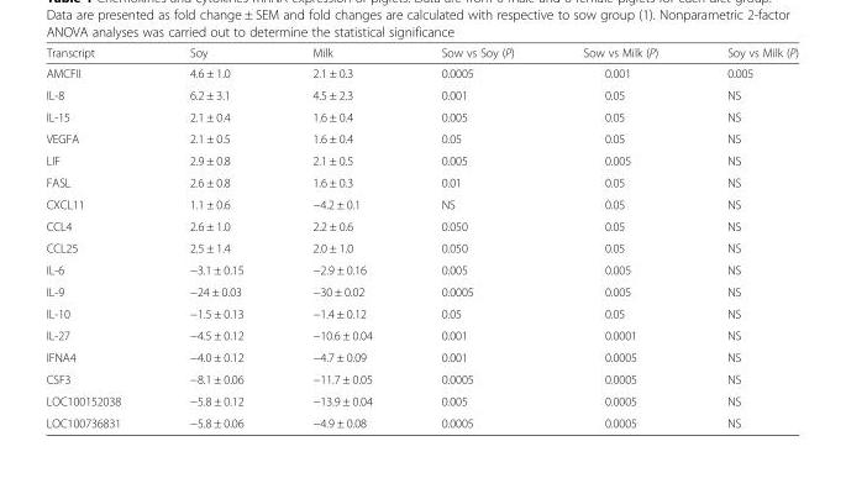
<table><thead><tr><td>Transcript</td><td>Soy</td><td>Milk</td><td>Sow vs Soy (P)</td><td>Sow vs Milk (P)</td><td>Soy vs Milk (P)</td></tr></thead><tbody><tr><td>AMCFII</td><td>4.6 ± 1.0</td><td>2.1 ± 0.3</td><td>0.0005</td><td>0.001</td><td>0.005</td></tr><tr><td>IL-8</td><td>6.2 ± 3.1</td><td>4.5 ± 2.3</td><td>0.001</td><td>0.05</td><td>NS</td></tr><tr><td>IL-15</td><td>2.1 ± 0.4</td><td>1.6 ± 0.4</td><td>0.005</td><td>0.05</td><td>NS</td></tr><tr><td>VEGFA</td><td>2.1 ± 0.5</td><td>1.6 ± 0.4</td><td>0.05</td><td>0.05</td><td>NS</td></tr><tr><td>LIF</td><td>2.9 ± 0.8</td><td>2.1 ± 0.5</td><td>0.005</td><td>0.005</td><td>NS</td></tr><tr><td>FASL</td><td>2.6 ± 0.8</td><td>1.6 ± 0.3</td><td>0.01</td><td>0.05</td><td>NS</td></tr><tr><td>CXCL11</td><td>1.1 ± 0.6</td><td>−4.2 ± 0.1</td><td>NS</td><td>0.05</td><td>NS</td></tr><tr><td>CCL4</td><td>2.6 ± 1.0</td><td>2.2 ± 0.6</td><td>0.050</td><td>0.05</td><td>NS</td></tr><tr><td>CCL25</td><td>2.5 ± 1.4</td><td>2.0 ± 1.0</td><td>0.050</td><td>0.05</td><td>NS</td></tr><tr><td>IL-6</td><td>−3.1 ± 0.15</td><td>−2.9 ± 0.16</td><td>0.005</td><td>0.005</td><td>NS</td></tr><tr><td>IL-9</td><td>−24 ± 0.03</td><td>−30 ± 0.02</td><td>0.0005</td><td>0.005</td><td>NS</td></tr><tr><td>IL-10</td><td>−1.5 ± 0.13</td><td>−1.4 ± 0.12</td><td>0.05</td><td>0.05</td><td>NS</td></tr><tr><td>IL-27</td><td>−4.5 ± 0.12</td><td>−10.6 ± 0.04</td><td>0.001</td><td>0.0001</td><td>NS</td></tr><tr><td>IFNA4</td><td>−4.0 ± 0.12</td><td>−4.7 ± 0.09</td><td>0.001</td><td>0.0005</td><td>NS</td></tr><tr><td>CSF3</td><td>−8.1 ± 0.06</td><td>−11.7 ± 0.05</td><td>0.0005</td><td>0.0005</td><td>NS</td></tr><tr><td>LOC100152038</td><td>−5.8 ± 0.12</td><td>−13.9 ± 0.04</td><td>0.005</td><td>0.0005</td><td>NS</td></tr><tr><td>LOC100736831</td><td>−5.8 ± 0.06</td><td>−4.9 ± 0.08</td><td>0.0005</td><td>0.0005</td><td>NS</td></tr></tbody></table>